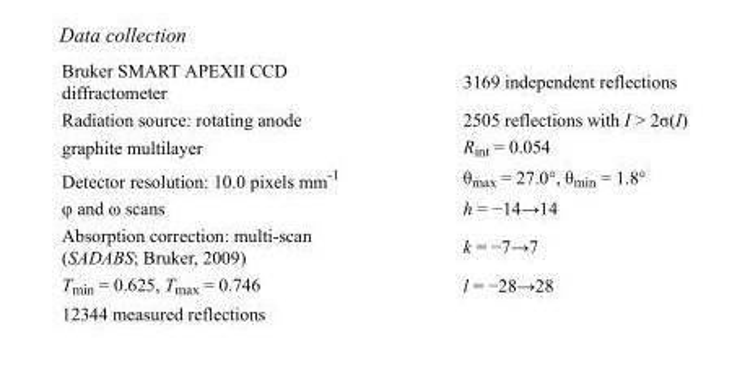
<table><tbody><tr><td>Bruker SMART APEXII CCD diffractometer</td><td>3169 independent reflections</td></tr><tr><td>Radiation source: rotating anode</td><td>2505 reflections with I &gt; 2σ(I)</td></tr><tr><td>graphite multilayer</td><td>R<sub>int</sub> = 0.054</td></tr><tr><td>Detector resolution: 10.0 pixels mm<sup>-1</sup></td><td>θ<sub>max</sub> = 27.0°, θ<sub>min</sub> = 1.8°</td></tr><tr><td>φ and ω scans</td><td>h = −14→14</td></tr><tr><td>Absorption correction: multi-scan (SADABS; Bruker, 2009)</td><td>k = −7→7</td></tr><tr><td>T<sub>min</sub> = 0.625, T<sub>max</sub> = 0.746</td><td>l = −28→28</td></tr><tr><td>12344 measured reflections</td><td></td></tr></tbody></table>